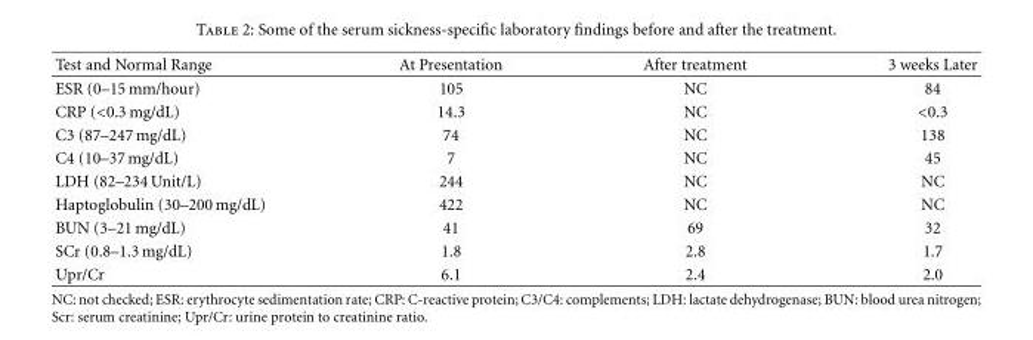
<table><thead><tr><td>Test and Normal Range</td><td>At Presentation</td><td>After treatment</td><td>3 weeks Later</td></tr></thead><tbody><tr><td>ESR (0–15 mm/hour)</td><td>105</td><td>NC</td><td>84</td></tr><tr><td>CRP (&lt;0.3 mg/dL)</td><td>14.3</td><td>NC</td><td>&lt;0.3</td></tr><tr><td>C3 (87–247 mg/dL)</td><td>74</td><td>NC</td><td>138</td></tr><tr><td>C4 (10–37 mg/dL)</td><td>7</td><td>NC</td><td>45</td></tr><tr><td>LDH (82–234 Unit/L)</td><td>244</td><td>NC</td><td>NC</td></tr><tr><td>Haptoglobulin (30–200 mg/dL)</td><td>422</td><td>NC</td><td>NC</td></tr><tr><td>BUN (3–21 mg/dL)</td><td>41</td><td>69</td><td>32</td></tr><tr><td>SCr (0.8–1.3 mg/dL)</td><td>1.8</td><td>2.8</td><td>1.7</td></tr><tr><td>Upr/Cr</td><td>6.1</td><td>2.4</td><td>2.0</td></tr></tbody></table>